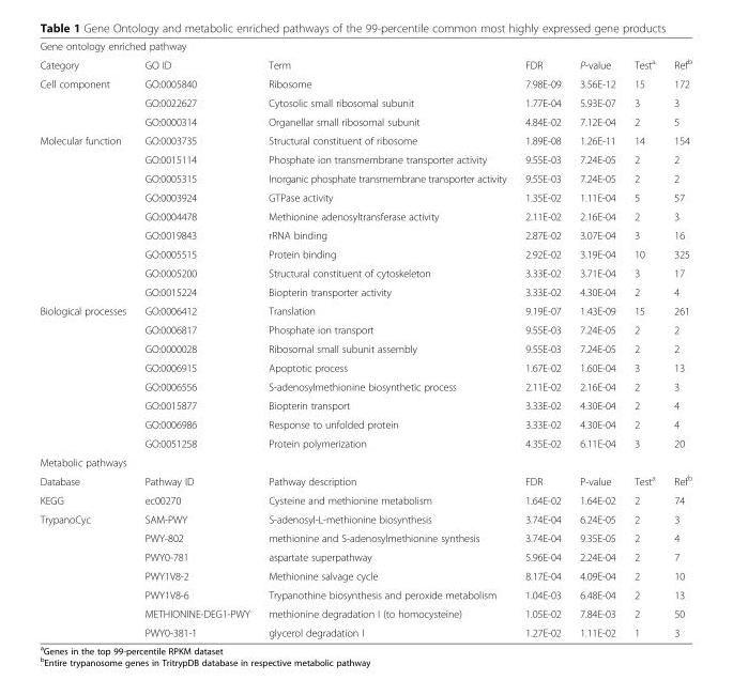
<table><tbody><tr><td colspan="7">Gene ontology enriched pathway</td></tr><tr><td>Category</td><td>GO ID</td><td>Term</td><td>FDR</td><td>P-value</td><td>Test<sup>a</sup></td><td>Ref<sup>b</sup></td></tr><tr><td rowspan="3">Cell component</td><td>GO:0005840</td><td>Ribosome</td><td>7.98E-09</td><td>3.56E-12</td><td>15</td><td>172</td></tr><tr><td>GO:0022627</td><td>Cytosolic small ribosomal subunit</td><td>1.77E-04</td><td>5.93E-07</td><td>3</td><td>3</td></tr><tr><td>GO:0000314</td><td>Organellar small ribosomal subunit</td><td>4.84E-02</td><td>7.12E-04</td><td>2</td><td>5</td></tr><tr><td rowspan="9">Molecular function</td><td>GO:0003735</td><td>Structural constituent of ribosome</td><td>1.89E-08</td><td>1.26E-11</td><td>14</td><td>154</td></tr><tr><td>GO:0015114</td><td>Phosphate ion transmembrane transporter activity</td><td>9.55E-03</td><td>7.24E-05</td><td>2</td><td>2</td></tr><tr><td>GO:0005315</td><td>Inorganic phosphate transmembrane transporter activity</td><td>9.55E-03</td><td>7.24E-05</td><td>2</td><td>2</td></tr><tr><td>GO:0003924</td><td>GTPase activity</td><td>1.35E-02</td><td>1.11E-04</td><td>5</td><td>57</td></tr><tr><td>GO:0004478</td><td>Methionine adenosyltransferase activity</td><td>2.11E-02</td><td>2.16E-04</td><td>2</td><td>3</td></tr><tr><td>GO:0019843</td><td>rRNA binding</td><td>2.87E-02</td><td>3.07E-04</td><td>3</td><td>16</td></tr><tr><td>GO:0005515</td><td>Protein binding</td><td>2.92E-02</td><td>3.19E-04</td><td>10</td><td>325</td></tr><tr><td>GO:0005200</td><td>Structural constituent of cytoskeleton</td><td>3.33E-02</td><td>3.71E-04</td><td>3</td><td>17</td></tr><tr><td>GO:0015224</td><td>Biopterin transporter activity</td><td>3.33E-02</td><td>4.30E-04</td><td>2</td><td>4</td></tr><tr><td rowspan="8">Biological processes</td><td>GO:0006412</td><td>Translation</td><td>9.19E-07</td><td>1.43E-09</td><td>15</td><td>261</td></tr><tr><td>GO:0006817</td><td>Phosphate ion transport</td><td>9.55E-03</td><td>7.24E-05</td><td>2</td><td>2</td></tr><tr><td>GO:0000028</td><td>Ribosomal small subunit assembly</td><td>9.55E-03</td><td>7.24E-05</td><td>2</td><td>2</td></tr><tr><td>GO:0006915</td><td>Apoptotic process</td><td>1.67E-02</td><td>1.60E-04</td><td>3</td><td>13</td></tr><tr><td>GO:0006556</td><td>S-adenosylmethionine biosynthetic process</td><td>2.11E-02</td><td>2.16E-04</td><td>2</td><td>3</td></tr><tr><td>GO:0015877</td><td>Biopterin transport</td><td>3.33E-02</td><td>4.30E-04</td><td>2</td><td>4</td></tr><tr><td>GO:0006986</td><td>Response to unfolded protein</td><td>3.33E-02</td><td>4.30E-04</td><td>2</td><td>4</td></tr><tr><td>GO:0051258</td><td>Protein polymerization</td><td>4.35E-02</td><td>6.11E-04</td><td>3</td><td>20</td></tr><tr><td colspan="7">Metabolic pathways</td></tr><tr><td>Database</td><td>Pathway ID</td><td>Pathway description</td><td>FDR</td><td>P-value</td><td>Test<sup>a</sup></td><td>Ref<sup>b</sup></td></tr><tr><td>KEGG</td><td>ec00270</td><td>Cysteine and methionine metabolism</td><td>1.64E-02</td><td>1.64E-02</td><td>2</td><td>74</td></tr><tr><td rowspan="7">TrypanoCyc</td><td>SAM-PWY</td><td>S-adenosyl-L-methionine biosynthesis</td><td>3.74E-04</td><td>6.24E-05</td><td>2</td><td>3</td></tr><tr><td>PWY-802</td><td>methionine and S-adenosylmethionine synthesis</td><td>3.74E-04</td><td>9.35E-05</td><td>2</td><td>4</td></tr><tr><td>PWY0-781</td><td>aspartate superpathway</td><td>5.96E-04</td><td>2.24E-04</td><td>2</td><td>7</td></tr><tr><td>PWY1V8-2</td><td>Methionine salvage cycle</td><td>8.17E-04</td><td>4.09E-04</td><td>2</td><td>10</td></tr><tr><td>PWY1V8-6</td><td>Trypanothine biosynthesis and peroxide metabolism</td><td>1.04E-03</td><td>6.48E-04</td><td>2</td><td>13</td></tr><tr><td>METHIONINE-DEG1-PWY</td><td>methionine degradation I (to homocysteine)</td><td>1.05E-02</td><td>7.84E-03</td><td>2</td><td>50</td></tr><tr><td>PWY0-381-1</td><td>glycerol degradation I</td><td>1.27E-02</td><td>1.11E-02</td><td>1</td><td>3</td></tr></tbody></table>